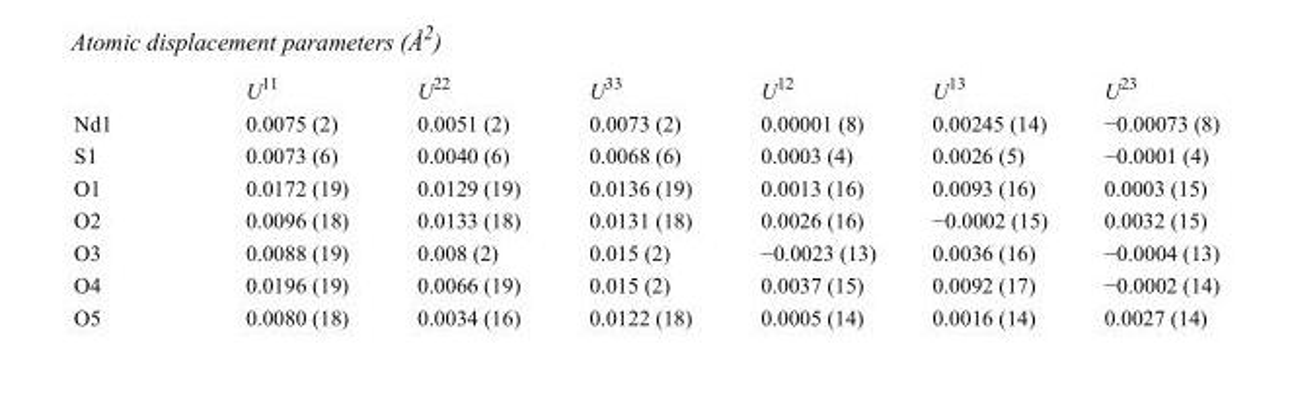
<table><thead><tr><td></td><td>U<sup>11</sup></td><td>U<sup>22</sup></td><td>U<sup>33</sup></td><td>U<sup>12</sup></td><td>U<sup>13</sup></td><td>U<sup>23</sup></td></tr></thead><tbody><tr><td>Nd1</td><td>0.0075 (2)</td><td>0.0051 (2)</td><td>0.0073 (2)</td><td>0.00001 (8)</td><td>0.00245 (14)</td><td>−0.00073 (8)</td></tr><tr><td>S1</td><td>0.0073 (6)</td><td>0.0040 (6)</td><td>0.0068 (6)</td><td>0.0003 (4)</td><td>0.0026 (5)</td><td>−0.0001 (4)</td></tr><tr><td>O1</td><td>0.0172 (19)</td><td>0.0129 (19)</td><td>0.0136 (19)</td><td>0.0013 (16)</td><td>0.0093 (16)</td><td>0.0003 (15)</td></tr><tr><td>O2</td><td>0.0096 (18)</td><td>0.0133 (18)</td><td>0.0131 (18)</td><td>0.0026 (16)</td><td>−0.0002 (15)</td><td>0.0032 (15)</td></tr><tr><td>O3</td><td>0.0088 (19)</td><td>0.008 (2)</td><td>0.015 (2)</td><td>−0.0023 (13)</td><td>0.0036 (16)</td><td>−0.0004 (13)</td></tr><tr><td>O4</td><td>0.0196 (19)</td><td>0.0066 (19)</td><td>0.015 (2)</td><td>0.0037 (15)</td><td>0.0092 (17)</td><td>−0.0002 (14)</td></tr><tr><td>O5</td><td>0.0080 (18)</td><td>0.0034 (16)</td><td>0.0122 (18)</td><td>0.0005 (14)</td><td>0.0016 (14)</td><td>0.0027 (14)</td></tr></tbody></table>